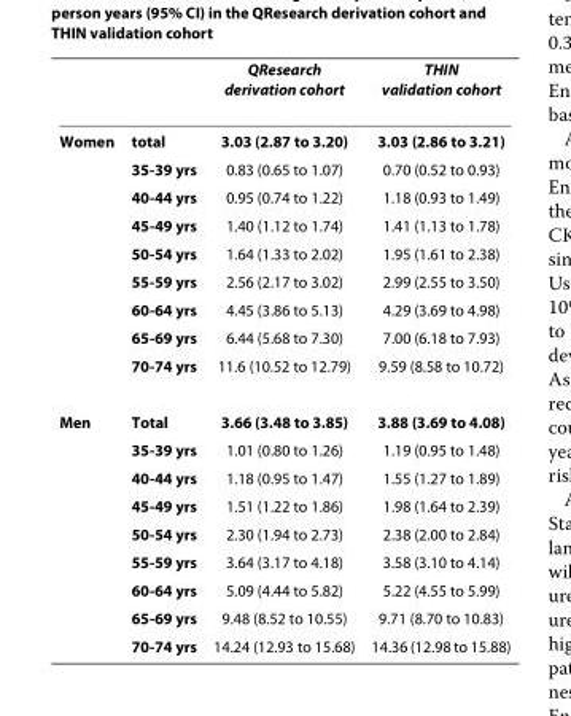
<table><thead><tr><td></td><td></td><td>QResearch derivation cohort</td><td>THIN validation cohort</td></tr></thead><tbody><tr><td rowspan="9">Women</td><td>total</td><td>3.03 (2.87 to 3.20)</td><td>3.03 (2.86 to 3.21)</td></tr><tr><td>35-39 yrs</td><td>0.83 (0.65 to 1.07)</td><td>0.70 (0.52 to 0.93)</td></tr><tr><td>40-44 yrs</td><td>0.95 (0.74 to 1.22)</td><td>1.18 (0.93 to 1.49)</td></tr><tr><td>45-49 yrs</td><td>1.40 (1.12 to 1.74)</td><td>1.41 (1.13 to 1.78)</td></tr><tr><td>50-54 yrs</td><td>1.64 (1.33 to 2.02)</td><td>1.95 (1.61 to 2.38)</td></tr><tr><td>55-59 yrs</td><td>2.56 (2.17 to 3.02)</td><td>2.99 (2.55 to 3.50)</td></tr><tr><td>60-64 yrs</td><td>4.45 (3.86 to 5.13)</td><td>4.29 (3.69 to 4.98)</td></tr><tr><td>65-69 yrs</td><td>6.44 (5.68 to 7.30)</td><td>7.00 (6.18 to 7.93)</td></tr><tr><td>70-74 yrs</td><td>11.6 (10.52 to 12.79)</td><td>9.59 (8.58 to 10.72)</td></tr><tr><td rowspan="9">Men</td><td>Total</td><td>3.66 (3.48 to 3.85)</td><td>3.88 (3.69 to 4.08)</td></tr><tr><td>35-39 yrs</td><td>1.01 (0.80 to 1.26)</td><td>1.19 (0.95 to 1.48)</td></tr><tr><td>40-44 yrs</td><td>1.18 (0.95 to 1.47)</td><td>1.55 (1.27 to 1.89)</td></tr><tr><td>45-49 yrs</td><td>1.51 (1.22 to 1.86)</td><td>1.98 (1.64 to 2.39)</td></tr><tr><td>50-54 yrs</td><td>2.30 (1.94 to 2.73)</td><td>2.38 (2.00 to 2.84)</td></tr><tr><td>55-59 yrs</td><td>3.64 (3.17 to 4.18)</td><td>3.58 (3.10 to 4.14)</td></tr><tr><td>60-64 yrs</td><td>5.09 (4.44 to 5.82)</td><td>5.22 (4.55 to 5.99)</td></tr><tr><td>65-69 yrs</td><td>9.48 (8.52 to 10.55)</td><td>9.71 (8.70 to 10.83)</td></tr><tr><td>70-74 yrs</td><td>14.24 (12.93 to 15.68)</td><td>14.36 (12.98 to 15.88)</td></tr></tbody></table>